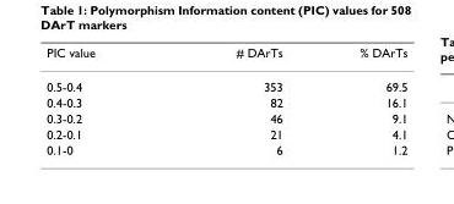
<table><thead><tr><td>PIC value</td><td># DArTs</td><td>% DArTs</td></tr></thead><tbody><tr><td>0.5-0.4</td><td>353</td><td>69.5</td></tr><tr><td>0.4-0.3</td><td>82</td><td>16.1</td></tr><tr><td>0.3-0.2</td><td>46</td><td>9.1</td></tr><tr><td>0.2-0.1</td><td>21</td><td>4.1</td></tr><tr><td>0.1-0</td><td>6</td><td>1.2</td></tr></tbody></table>